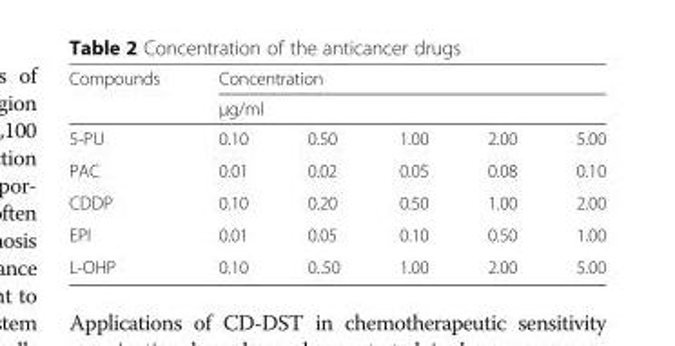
<table><thead><tr><td rowspan="3">Compounds 5-PU</td><td rowspan="2" colspan="5">Concentration μg/ml</td></tr><tr></tr><tr><td>0.10</td><td>0.50</td><td>1.00</td><td>2.00</td><td>5.00</td></tr></thead><tbody><tr><td>PAC</td><td>0.01</td><td>0.02</td><td>0.05</td><td>0.08</td><td>0.10</td></tr><tr><td>CDDP</td><td>0.10</td><td>0.20</td><td>0.50</td><td>1.00</td><td>2.00</td></tr><tr><td>EPI</td><td>0.01</td><td>0.05</td><td>0.10</td><td>0.50</td><td>1.00</td></tr><tr><td>L-OHP</td><td>0.10</td><td>0..50</td><td>1.00</td><td>2.00</td><td>5.00</td></tr></tbody></table>